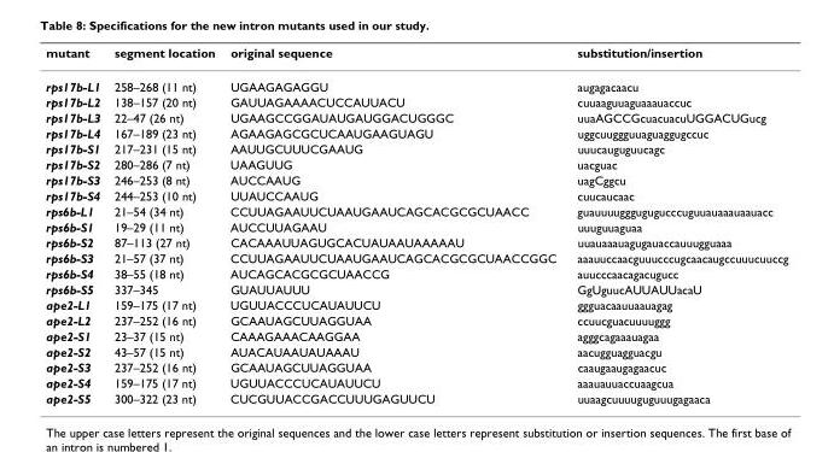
<table><thead><tr><td>mutant</td><td>segment location</td><td>original sequence</td><td>substitution/insertion</td></tr></thead><tbody><tr><td>rps17b-L1</td><td>258–268 (11 nt)</td><td>UGAAGAGAGGU</td><td>augagacaacu</td></tr><tr><td>rps17b-L2</td><td>138–157 (20 nt)</td><td>GAUUAGAAAACUCCAUUACU</td><td>cuuaaguuaguaaauaccuc</td></tr><tr><td>rps17b-L3</td><td>22–47 (26 nt)</td><td>UGAAGCCGGAUAUGAUGGACUGGGC</td><td>uuaAGCCGcuacuacuUGGACUGucg</td></tr><tr><td>rps17b-L4</td><td>167–189 (23 nt)</td><td>AGAAGAGCGCUCAAUGAAGUAGU</td><td>uggcuuggguuaguaggugccuc</td></tr><tr><td>rps17b-S1</td><td>217–231 (15 nt)</td><td>AAUUGCUUUCGAAUG</td><td>uuucauguguucagc</td></tr><tr><td>rps17b-S2</td><td>280–286 (7 nt)</td><td>UAAGUUG</td><td>uacguac</td></tr><tr><td>rps17b-S3</td><td>246–253 (8 nt)</td><td>AUCCAAUG</td><td>uagCggcu</td></tr><tr><td>rps17b-S4</td><td>244–253 (10 nt)</td><td>UUAUCCAAUG</td><td>cuucaucaac</td></tr><tr><td>rps6b-L1</td><td>21–54 (34 nt)</td><td>CCUUAGAAUUCUAAUGAAUCAGCACGCGCUAACC</td><td>guauuuugggugugucccuguuauaaauaauacc</td></tr><tr><td>rps6b-S1</td><td>19–29 (11 nt)</td><td>AUCCUUAGAAU</td><td>uuuguuaguaa</td></tr><tr><td>rps6b-S2</td><td>87–113 (27 nt)</td><td>CACAAAUUAGUGCACUAUAAUAAAAAU</td><td>uuauaaauagugauaccauuugguaaa</td></tr><tr><td>rps6b-S3</td><td>21–57 (37 nt)</td><td>CCUUAGAAUUCUAAUGAAUCAGCACGCGCUAACCGGC</td><td>aaauuccaacguuucccugcaacaugccuuucuuccg</td></tr><tr><td>rps6b-S4</td><td>38–55 (18 nt)</td><td>AUCAGCACGCGCUAACCG</td><td>auucccaacagacugucc</td></tr><tr><td>rps6b-S5</td><td>337–345</td><td>GUAUUAUUU</td><td>GgUguucAUUAUUacaU</td></tr><tr><td>ape2-L1</td><td>159–175 (17 nt)</td><td>UGUUACCCUCAUAUUCU</td><td>ggguacaauuaauagag</td></tr><tr><td>ape2-L2</td><td>237–252 (16 nt)</td><td>GCAAUAGCUUAGGUAA</td><td>ccuucguacuuuuggg</td></tr><tr><td>ape2-S1</td><td>23–37 (15 nt)</td><td>CAAAGAAACAAGGAA</td><td>agggcagaaauagaa</td></tr><tr><td>ape2-S2</td><td>43–57 (15 nt)</td><td>AUACAUAAUAUAAAU</td><td>aacugguagguacgu</td></tr><tr><td>ape2-S3</td><td>237–252 (16 nt)</td><td>GCAAUAGCUUAGGUAA</td><td>caaugaaugagaacuc</td></tr><tr><td>ape2-S4</td><td>159–175 (17 nt)</td><td>UGUUACCCUCAUAUUCU</td><td>aaauauuaccuaagcua</td></tr><tr><td>ape2-S5</td><td>300–322 (23 nt)</td><td>CUCGUUACCGACCUUUGAGUUCU</td><td>uuaagcuuuuguguuugagaaca</td></tr></tbody></table>